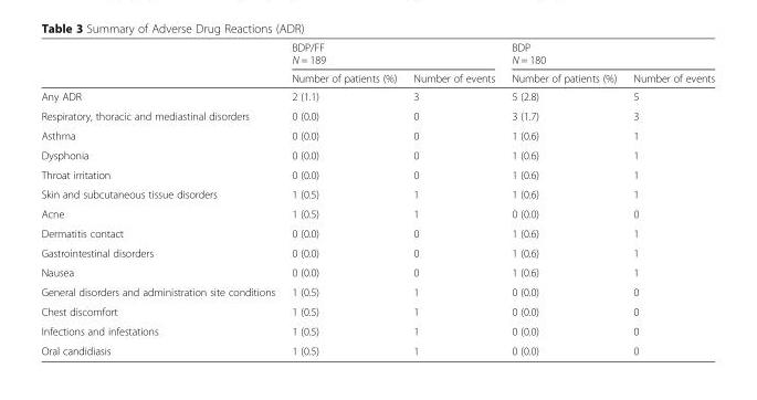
<table><thead><tr><td rowspan="2"></td><td colspan="2">BDP/FF N = 189</td><td colspan="2">BDP N = 180</td></tr><tr><td>Number of patients (%)</td><td>Number of events</td><td>Number of patients (%)</td><td>Number of events</td></tr></thead><tbody><tr><td>Any ADR</td><td>2 (1.1)</td><td>3</td><td>5 (2.8)</td><td>5</td></tr><tr><td>Respiratory, thoracic and mediastinal disorders</td><td>0 (0.0)</td><td>0</td><td>3 (1.7)</td><td>3</td></tr><tr><td>Asthma</td><td>0 (0.0)</td><td>0</td><td>1 (0.6)</td><td>1</td></tr><tr><td>Dysphonia</td><td>0 (0.0)</td><td>0</td><td>1 (0.6)</td><td>1</td></tr><tr><td>Throat irritation</td><td>0 (0.0)</td><td>0</td><td>1 (0.6)</td><td>1</td></tr><tr><td>Skin and subcutaneous tissue disorders</td><td>1 (0.5)</td><td>1</td><td>1 (0.6)</td><td>1</td></tr><tr><td>Acne</td><td>1 (0.5)</td><td>1</td><td>0 (0.0)</td><td>0</td></tr><tr><td>Dermatitis contact</td><td>0 (0.0)</td><td>0</td><td>1 (0.6)</td><td>1</td></tr><tr><td>Gastrointestinal disorders</td><td>0 (0.0)</td><td>0</td><td>1 (0.6)</td><td>1</td></tr><tr><td>Nausea</td><td>0 (0.0)</td><td>0</td><td>1 (0.6)</td><td>1</td></tr><tr><td>General disorders and administration site conditions</td><td>1 (0.5)</td><td>1</td><td>0 (0.0)</td><td>0</td></tr><tr><td>Chest discomfort</td><td>1 (0.5)</td><td>1</td><td>0 (0.0)</td><td>0</td></tr><tr><td>Infections and infestations</td><td>1 (0.5)</td><td>1</td><td>0 (0.0)</td><td>0</td></tr><tr><td>Oral candidiasis</td><td>1 (0.5)</td><td>1</td><td>0 (0.0)</td><td>0</td></tr></tbody></table>